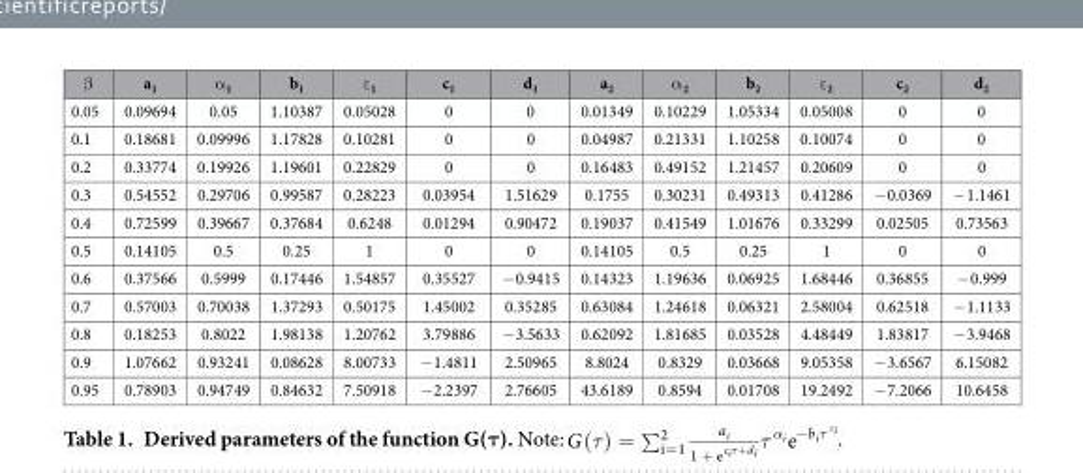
<table><thead><tr><td>β</td><td>a<sub>1</sub></td><td>α <sub>1</sub></td><td>b<sub>1</sub></td><td>ε <sub>1</sub></td><td>c<sub>1</sub></td><td>d<sub>1</sub></td><td>a<sub>2</sub></td><td>α <sub>2</sub></td><td>b<sub>2</sub></td><td>ε <sub>2</sub></td><td>c<sub>2</sub></td><td>d<sub>2</sub></td></tr></thead><tbody><tr><td>0.05</td><td>0.09694</td><td>0.05</td><td>1.10387</td><td>0.05028</td><td>0</td><td>0</td><td>0.01349</td><td>0.10229</td><td>1.05334</td><td>0.05008</td><td>0</td><td>0</td></tr><tr><td>0.1</td><td>0.18681</td><td>0.09996</td><td>1.17828</td><td>0.10281</td><td>0</td><td>0</td><td>0.04987</td><td>0.21331</td><td>1.10258</td><td>0.10074</td><td>0</td><td>0</td></tr><tr><td>0.2</td><td>0.33774</td><td>0.19926</td><td>1.19601</td><td>0.22829</td><td>0</td><td>0</td><td>0.16483</td><td>0.49152</td><td>1.21457</td><td>0.20609</td><td>0</td><td>0</td></tr><tr><td>0.3</td><td>0.54552</td><td>0.29706</td><td>0.99587</td><td>0.28223</td><td>0.03954</td><td>1.51629</td><td>0.1755</td><td>0.30231</td><td>0.49313</td><td>0.41286</td><td>− 0.0369</td><td>− 1.1461</td></tr><tr><td>0.4</td><td>0.72599</td><td>0.39667</td><td>0.37684</td><td>0.6248</td><td>0.01294</td><td>0.90472</td><td>0.19037</td><td>0.41549</td><td>1.01676</td><td>0.33299</td><td>0.02505</td><td>0.73563</td></tr><tr><td>0.5</td><td>0.14105</td><td>0.5</td><td>0.25</td><td>1</td><td>0</td><td>0</td><td>0.14105</td><td>0.5</td><td>0.25</td><td>1</td><td>0</td><td>0</td></tr><tr><td>0.6</td><td>0.37566</td><td>0.5999</td><td>0.17446</td><td>1.54857</td><td>0.35527</td><td>− 0.9415</td><td>0.14323</td><td>1.19636</td><td>0.06925</td><td>1.68446</td><td>0.36855</td><td>− 0.999</td></tr><tr><td>0.7</td><td>0.57003</td><td>0.70038</td><td>1.37293</td><td>0.50175</td><td>1.45002</td><td>0.35285</td><td>0.63084</td><td>1.24618</td><td>0.06321</td><td>2.58004</td><td>0.62518</td><td>− 1.1133</td></tr><tr><td>0.8</td><td>0.18253</td><td>0.8022</td><td>1.98138</td><td>1.20762</td><td>3.79886</td><td>− 3.5633</td><td>0.62092</td><td>1.81685</td><td>0.03528</td><td>4.48449</td><td>1.83817</td><td>− 3.9468</td></tr><tr><td>0.9</td><td>1.07662</td><td>0.93241</td><td>0.08628</td><td>8.00733</td><td>− 1.4811</td><td>2.50965</td><td>8.8024</td><td>0.8329</td><td>0.03668</td><td>9.05358</td><td>− 3.6567</td><td>6.15082</td></tr><tr><td>0.95</td><td>0.78903</td><td>0.94749</td><td>0.84632</td><td>7.50918</td><td>− 2.2397</td><td>2.76605</td><td>43.6189</td><td>0.8594</td><td>0.01708</td><td>19.2492</td><td>− 7.2066</td><td>10.6458</td></tr></tbody></table>